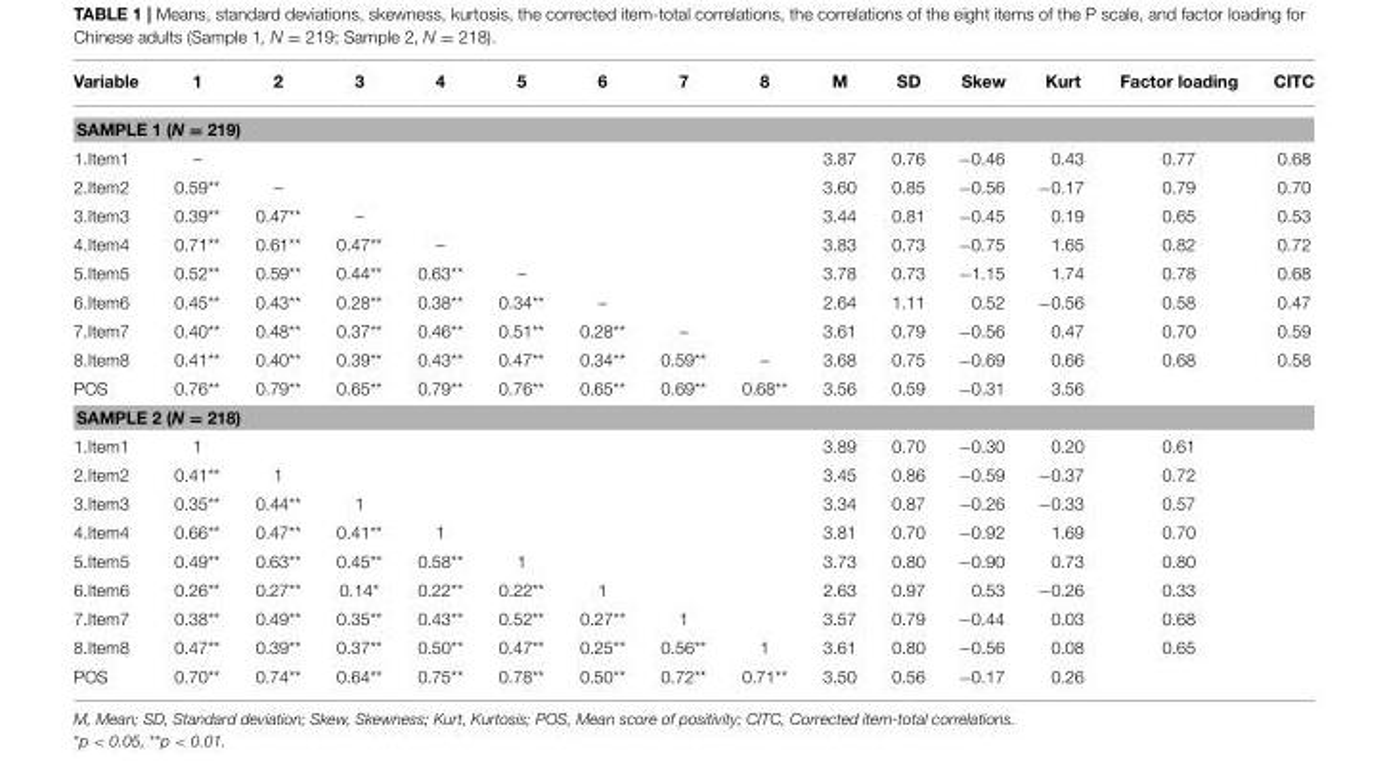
<table><thead><tr><td>Variable</td><td>1</td><td>2</td><td>3</td><td>4</td><td>5</td><td>6</td><td>7</td><td>8</td><td>M</td><td>SD</td><td>Skew</td><td>Kurt</td><td>Factor loading</td><td>CITC</td></tr></thead><tbody><tr><td colspan="15">SAMPLE 1 (N = 219)</td></tr><tr><td>1.Item1</td><td>–</td><td></td><td></td><td></td><td></td><td></td><td></td><td></td><td>3.87</td><td>0.76</td><td>−0.46</td><td>0.43</td><td>0.77</td><td>0.68</td></tr><tr><td>2.Item2</td><td>0.59**</td><td>–</td><td></td><td></td><td></td><td></td><td></td><td></td><td>3.60</td><td>0.85</td><td>−0.56</td><td>−0.17</td><td>0.79</td><td>0.70</td></tr><tr><td>3.Item3</td><td>0.39**</td><td>0.47**</td><td>–</td><td></td><td></td><td></td><td></td><td></td><td>3.44</td><td>0.81</td><td>−0.45</td><td>0.19</td><td>0.65</td><td>0.53</td></tr><tr><td>4.Item4</td><td>0.71**</td><td>0.61**</td><td>0.47**</td><td>–</td><td></td><td></td><td></td><td></td><td>3.83</td><td>0.73</td><td>−0.75</td><td>1.65</td><td>0.82</td><td>0.72</td></tr><tr><td>5.Item5</td><td>0.52**</td><td>0.59**</td><td>0.44**</td><td>0.63**</td><td>–</td><td></td><td></td><td></td><td>3.78</td><td>0.73</td><td>−1.15</td><td>1.74</td><td>0.78</td><td>0.68</td></tr><tr><td>6.Item6</td><td>0.45**</td><td>0.43**</td><td>0.28**</td><td>0.38**</td><td>0.34**</td><td>–</td><td></td><td></td><td>2.64</td><td>1.11</td><td>0.52</td><td>−0.56</td><td>0.58</td><td>0.47</td></tr><tr><td>7.Item7</td><td>0.40**</td><td>0.48**</td><td>0.37**</td><td>0.46**</td><td>0.51**</td><td>0.28**</td><td>–</td><td></td><td>3.61</td><td>0.79</td><td>−0.56</td><td>0.47</td><td>0.70</td><td>0.59</td></tr><tr><td>8.Item8</td><td>0.41**</td><td>0.40**</td><td>0.39**</td><td>0.43**</td><td>0.47**</td><td>0.34**</td><td>0.59**</td><td>–</td><td>3.68</td><td>0.75</td><td>−0.69</td><td>0.66</td><td>0.68</td><td>0.58</td></tr><tr><td>POS</td><td>0.76**</td><td>0.79**</td><td>0.65**</td><td>0.79**</td><td>0.76**</td><td>0.65**</td><td>0.69**</td><td>0.68**</td><td>3.56</td><td>0.59</td><td>−0.31</td><td>3.56</td><td></td><td></td></tr><tr><td colspan="15">SAMPLE 2 (N = 218)</td></tr><tr><td>1.Item1</td><td>1</td><td></td><td></td><td></td><td></td><td></td><td></td><td></td><td>3.89</td><td>0.70</td><td>−0.30</td><td>0.20</td><td>0.61</td><td></td></tr><tr><td>2.Item2</td><td>0.41**</td><td>1</td><td></td><td></td><td></td><td></td><td></td><td></td><td>3.45</td><td>0.86</td><td>−0.59</td><td>−0.37</td><td>0.72</td><td></td></tr><tr><td>3.Item3</td><td>0.35**</td><td>0.44**</td><td>1</td><td></td><td></td><td></td><td></td><td></td><td>3.34</td><td>0.87</td><td>−0.26</td><td>−0.33</td><td>0.57</td><td></td></tr><tr><td>4.Item4</td><td>0.66**</td><td>0.47**</td><td>0.41**</td><td>1</td><td></td><td></td><td></td><td></td><td>3.81</td><td>0.70</td><td>−0.92</td><td>1.69</td><td>0.70</td><td></td></tr><tr><td>5.Item5</td><td>0.49**</td><td>0.63**</td><td>0.45**</td><td>0.58**</td><td>1</td><td></td><td></td><td></td><td>3.73</td><td>0.80</td><td>−0.90</td><td>0.73</td><td>0.80</td><td></td></tr><tr><td>6.Item6</td><td>0.26**</td><td>0.27**</td><td>0.14*</td><td>0.22**</td><td>0.22**</td><td>1</td><td></td><td></td><td>2.63</td><td>0.97</td><td>0.53</td><td>−0.26</td><td>0.33</td><td></td></tr><tr><td>7.Item7</td><td>0.38**</td><td>0.49**</td><td>0.35**</td><td>0.43**</td><td>0.52**</td><td>0.27**</td><td>1</td><td></td><td>3.57</td><td>0.79</td><td>−0.44</td><td>0.03</td><td>0.68</td><td></td></tr><tr><td>8.Item8</td><td>0.47**</td><td>0.39**</td><td>0.37**</td><td>0.50**</td><td>0.47**</td><td>0.25**</td><td>0.56**</td><td>1</td><td>3.61</td><td>0.80</td><td>−0.56</td><td>0.08</td><td>0.65</td><td></td></tr><tr><td>POS</td><td>0.70**</td><td>0.74**</td><td>0.64**</td><td>0.75**</td><td>0.78**</td><td>0.50**</td><td>0.72**</td><td>0.71**</td><td>3.50</td><td>0.56</td><td>−0.17</td><td>0.26</td><td></td><td></td></tr></tbody></table>